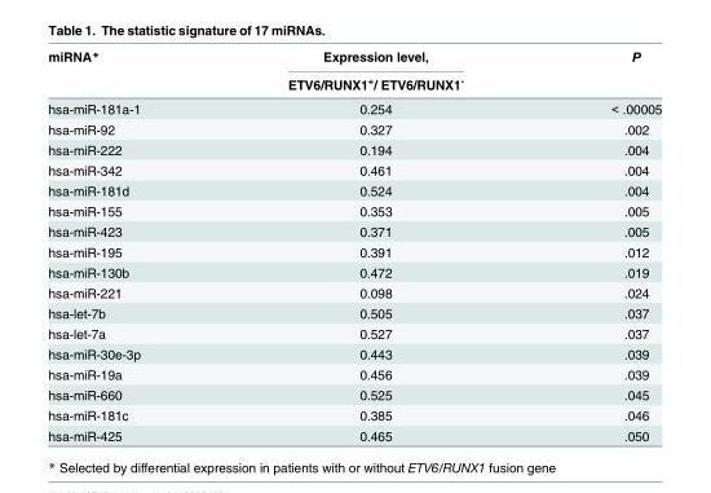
<table><thead><tr><td rowspan="2">miRNA*</td><td rowspan="2">Expression level, ETV6/RUNX1<sup>+</sup>/ ETV6/RUNX1<sup>-</sup></td><td rowspan="2">P</td></tr><tr></tr></thead><tbody><tr><td>hsa-miR-181a-1</td><td>0.254</td><td>&lt; .00005</td></tr><tr><td>hsa-miR-92</td><td>0.327</td><td>.002</td></tr><tr><td>hsa-miR-222</td><td>0.194</td><td>.004</td></tr><tr><td>hsa-miR-342</td><td>0.461</td><td>.004</td></tr><tr><td>hsa-miR-181d</td><td>0.524</td><td>.004</td></tr><tr><td>hsa-miR-155</td><td>0.353</td><td>.005</td></tr><tr><td>hsa-miR-423</td><td>0.371</td><td>.005</td></tr><tr><td>hsa-miR-195</td><td>0.391</td><td>.012</td></tr><tr><td>hsa-miR-130b</td><td>0.472</td><td>.019</td></tr><tr><td>hsa-miR-221</td><td>0.098</td><td>.024</td></tr><tr><td>hsa-let-7b</td><td>0.505</td><td>.037</td></tr><tr><td>hsa-let-7a</td><td>0.527</td><td>.037</td></tr><tr><td>hsa-miR-30e-3p</td><td>0.443</td><td>.039</td></tr><tr><td>hsa-miR-19a</td><td>0.456</td><td>.039</td></tr><tr><td>hsa-miR-660</td><td>0.525</td><td>.045</td></tr><tr><td>hsa-miR-181c</td><td>0.385</td><td>.046</td></tr><tr><td>hsa-miR-425</td><td>0.465</td><td>.050</td></tr></tbody></table>